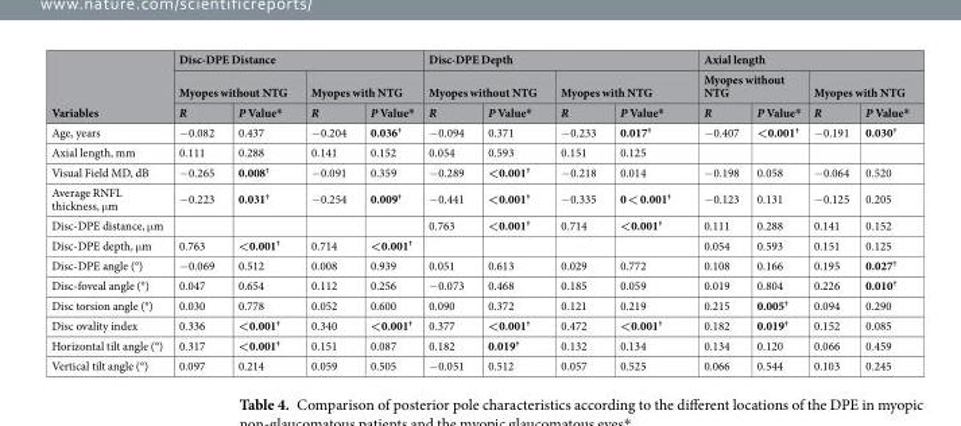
<table><thead><tr><td rowspan="3">Variables</td><td colspan="4">Disc-DPE Distance</td><td colspan="4">Disc-DPE Depth</td><td colspan="4">Axial length</td></tr><tr><td colspan="2">Myopes without NTG</td><td colspan="2">Myopes with NTG</td><td colspan="2">Myopes without NTG</td><td colspan="2">Myopes with NTG</td><td colspan="2">Myopes without NTG</td><td colspan="2">Myopes with NTG</td></tr><tr><td>R</td><td>P Value*</td><td>R</td><td>P Value*</td><td>R</td><td>P Value*</td><td>R</td><td>P Value*</td><td>R</td><td>P Value*</td><td>R</td><td>P Value*</td></tr></thead><tbody><tr><td>Age, years</td><td>−0.082</td><td>0.437</td><td>−0.204</td><td>0.036<sup>†</sup></td><td>−0.094</td><td>0.371</td><td>−0.233</td><td>0.017<sup>†</sup></td><td>−0.407</td><td>&lt;0.001<sup>†</sup></td><td>−0.191</td><td>0.030<sup>†</sup></td></tr><tr><td>Axial length, mm</td><td>0.111</td><td>0.288</td><td>0.141</td><td>0.152</td><td>0.054</td><td>0.593</td><td>0.151</td><td>0.125</td><td></td><td></td><td></td><td></td></tr><tr><td>Visual Field MD, dB</td><td>−0.265</td><td>0.008<sup>†</sup></td><td>−0.091</td><td>0.359</td><td>−0.289</td><td>&lt;0.001<sup>†</sup></td><td>−0.218</td><td>0.014</td><td>−0.198</td><td>0.058</td><td>−0.064</td><td>0.520</td></tr><tr><td>Average RNFL thickness, μm</td><td>−0.223</td><td>0.031<sup>†</sup></td><td>−0.254</td><td>0.009<sup>†</sup></td><td>−0.441</td><td>&lt;0.001<sup>†</sup></td><td>−0.335</td><td>0 &lt; 0.001<sup>†</sup></td><td>−0.123</td><td>0.131</td><td>−0.125</td><td>0.205</td></tr><tr><td>Disc-DPE distance, μm</td><td></td><td></td><td></td><td></td><td>0.763</td><td>&lt;0.001<sup>†</sup></td><td>0.714</td><td>&lt;0.001<sup>†</sup></td><td>0.111</td><td>0.288</td><td>0.141</td><td>0.152</td></tr><tr><td>Disc-DPE depth, μm</td><td>0.763</td><td>&lt;0.001<sup>†</sup></td><td>0.714</td><td>&lt;0.001<sup>†</sup></td><td></td><td></td><td></td><td></td><td>0.054</td><td>0.593</td><td>0.151</td><td>0.125</td></tr><tr><td>Disc-DPE angle (°)</td><td>−0.069</td><td>0.512</td><td>0.008</td><td>0.939</td><td>0.051</td><td>0.613</td><td>0.029</td><td>0.772</td><td>0.108</td><td>0.166</td><td>0.195</td><td>0.027<sup>†</sup></td></tr><tr><td>Disc-foveal angle (°)</td><td>0.047</td><td>0.654</td><td>0.112</td><td>0.256</td><td>−0.073</td><td>0.468</td><td>0.185</td><td>0.059</td><td>0.019</td><td>0.804</td><td>0.226</td><td>0.010<sup>†</sup></td></tr><tr><td>Disc torsion angle (°)</td><td>0.030</td><td>0.778</td><td>0.052</td><td>0.600</td><td>0.090</td><td>0.372</td><td>0.121</td><td>0.219</td><td>0.215</td><td>0.005<sup>†</sup></td><td>0.094</td><td>0.290</td></tr><tr><td>Disc ovality index</td><td>0.336</td><td>&lt;0.001<sup>†</sup></td><td>0.340</td><td>&lt;0.001<sup>†</sup></td><td>0.377</td><td>&lt;0.001<sup>†</sup></td><td>0.472</td><td>&lt;0.001<sup>†</sup></td><td>0.182</td><td>0.019<sup>†</sup></td><td>0.152</td><td>0.085</td></tr><tr><td>Horizontal tilt angle (°)</td><td>0.317</td><td>&lt;0.001<sup>†</sup></td><td>0.151</td><td>0.087</td><td>0.182</td><td>0.019<sup>†</sup></td><td>0.132</td><td>0.134</td><td>0.134</td><td>0.120</td><td>0.066</td><td>0.459</td></tr><tr><td>Vertical tilt angle (°)</td><td>0.097</td><td>0.214</td><td>0.059</td><td>0.505</td><td>−0.051</td><td>0.512</td><td>0.057</td><td>0.525</td><td>0.066</td><td>0.544</td><td>0.103</td><td>0.245</td></tr></tbody></table>